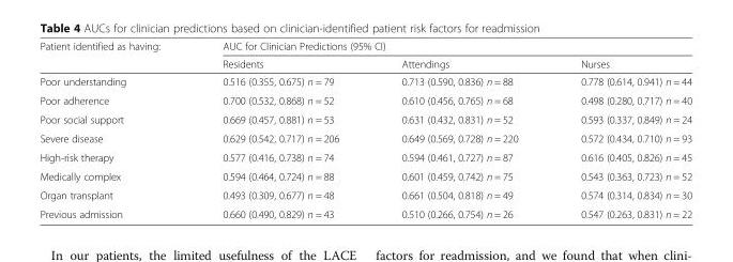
<table><thead><tr><td rowspan="2">Patient identified as having:</td><td colspan="3">AUC for Clinician Predictions (95% CI)</td></tr><tr><td>Residents</td><td>Attendings</td><td>Nurses</td></tr></thead><tbody><tr><td>Poor understanding</td><td>0.516 (0.355, 0.675) n = 79</td><td>0.713 (0.590, 0.836) n = 88</td><td>0.778 (0.614, 0.941) n = 44</td></tr><tr><td>Poor adherence</td><td>0.700 (0.532, 0.868) n = 52</td><td>0.610 (0.456, 0.765) n = 68</td><td>0.498 (0.280, 0.717) n = 40</td></tr><tr><td>Poor social support</td><td>0.669 (0.457, 0.881) n = 53</td><td>0.631 (0.432, 0.831) n = 52</td><td>0.593 (0.337, 0.849) n = 24</td></tr><tr><td>Severe disease</td><td>0.629 (0.542, 0.717) n = 206</td><td>0.649 (0.569, 0.728) n = 220</td><td>0.572 (0.434, 0.710) n = 93</td></tr><tr><td>High-risk therapy</td><td>0.577 (0.416, 0.738) n = 74</td><td>0.594 (0.461, 0.727) n = 87</td><td>0.616 (0.405, 0.826) n = 45</td></tr><tr><td>Medically complex</td><td>0.594 (0.464, 0.724) n = 88</td><td>0.601 (0.459, 0.742) n = 75</td><td>0.543 (0.363, 0.723) n = 52</td></tr><tr><td>Organ transplant</td><td>0.493 (0.309, 0.677) n = 48</td><td>0.661 (0.504, 0.818) n = 49</td><td>0.574 (0.314, 0.834) n = 30</td></tr><tr><td>Previous admission</td><td>0.660 (0.490, 0.829) n = 43</td><td>0.510 (0.266, 0.754) n = 26</td><td>0.547 (0.263, 0.831) n = 22</td></tr></tbody></table>